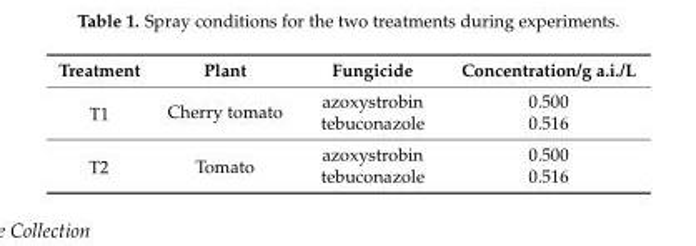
<table><thead><tr><td>Treatment</td><td>Plant</td><td>Fungicide</td><td>Concentration/g a.i./L</td></tr></thead><tbody><tr><td rowspan="2">T1</td><td rowspan="2">Cherry tomato</td><td>azoxystrobin</td><td>0.500</td></tr><tr><td>tebuconazole</td><td>0.516</td></tr><tr><td rowspan="2">T2</td><td rowspan="2">Tomato</td><td>azoxystrobin</td><td>0.500</td></tr><tr><td>tebuconazole</td><td>0.516</td></tr></tbody></table>